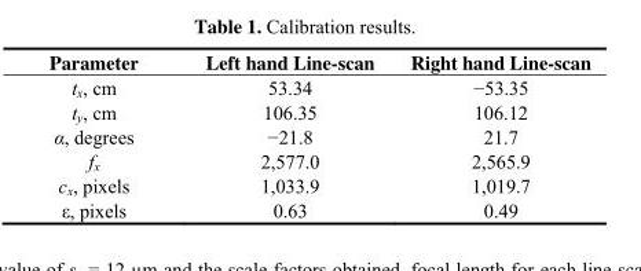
<table><thead><tr><td>Parameter</td><td>Left hand Line-scan</td><td>Right hand Line-scan</td></tr></thead><tbody><tr><td>t<sub>x</sub>, cm</td><td>53.34</td><td>−53.35</td></tr><tr><td>t<sub>y</sub>, cm</td><td>106.35</td><td>106.12</td></tr><tr><td>α, degrees</td><td>−21.8</td><td>21.7</td></tr><tr><td>f<sub>x</sub></td><td>2,577.0</td><td>2,565.9</td></tr><tr><td>c<sub>x</sub>, pixels</td><td>1,033.9</td><td>1,019.7</td></tr><tr><td>ε, pixels</td><td>0.63</td><td>0.49</td></tr></tbody></table>